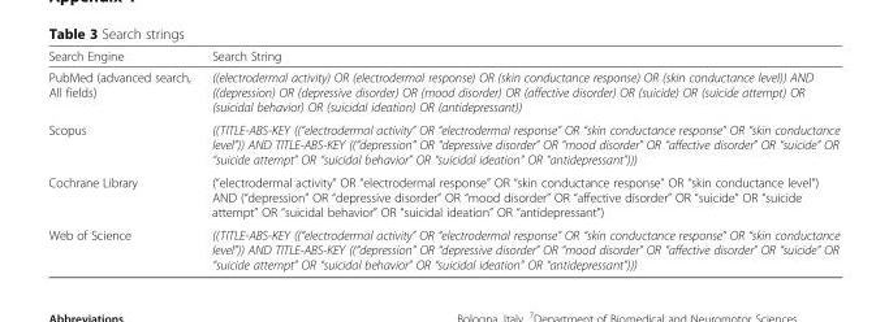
<table><thead><tr><td>Search Engine</td><td>Search String</td></tr></thead><tbody><tr><td>PubMed (advanced search, All fields)</td><td>((electrodermal activity) OR (electrodermal response) OR (skin conductance response) OR (skin conductance level)) AND ((depression) OR (depressive disorder) OR (mood disorder) OR (affective disorder) OR (suicide) OR (suicide attempt) OR (suicidal behavior) OR (suicidal ideation) OR (antidepressant))</td></tr><tr><td>Scopus</td><td>((TITLE-ABS-KEY ((“electrodermal activity” OR “electrodermal response” OR “skin conductance response” OR “skin conductance level”)) AND TITLE-ABS-KEY ((“depression” OR “depressive disorder” OR “mood disorder” OR “affective disorder” OR “suicide” OR “suicide attempt” OR “suicidal behavior” OR “suicidal ideation” OR “antidepressant”)))</td></tr><tr><td>Cochrane Library</td><td>(“electrodermal activity” OR “electrodermal response” OR “skin conductance response” OR “skin conductance level”) AND (“depression” OR “depressive disorder” OR “mood disorder” OR “affective disorder” OR “suicide” OR “suicide attempt” OR “suicidal behavior” OR “suicidal ideation” OR “antidepressant”)</td></tr><tr><td>Web of Science</td><td>((TITLE-ABS-KEY ((“electrodermal activity” OR “electrodermal response” OR “skin conductance response” OR “skin conductance level”)) AND TITLE-ABS-KEY ((“depression” OR “depressive disorder” OR “mood disorder” OR “affective disorder” OR “suicide” OR “suicide attempt” OR “suicidal behavior” OR “suicidal ideation” OR “antidepressant”)))</td></tr></tbody></table>